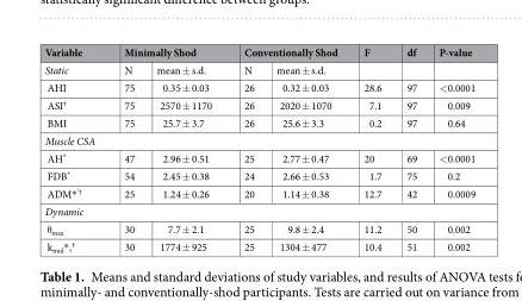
<table><thead><tr><td rowspan="2">Variable Static</td><td colspan="2">Minimally Shod</td><td colspan="2">Conventionally Shod</td><td rowspan="2">F</td><td rowspan="2">df</td><td rowspan="2">P-value</td></tr><tr><td>N</td><td>mean ± s.d.</td><td>N</td><td>mean ± s.d.</td></tr></thead><tbody><tr><td>AHI</td><td>75</td><td>0.35 ± 0.03</td><td>26</td><td>0.32 ± 0.03</td><td>28.6</td><td>97</td><td>&lt;0.0001</td></tr><tr><td>ASI<sup>†</sup></td><td>75</td><td>2570 ± 1170</td><td>26</td><td>2020 ± 1070</td><td>7.1</td><td>97</td><td>0.009</td></tr><tr><td>BMI</td><td>75</td><td>25.7 ± 3.7</td><td>26</td><td>25.6 ± 3.3</td><td>0.2</td><td>97</td><td>0.64</td></tr><tr><td colspan="8">Muscle CSA</td></tr><tr><td>AH*</td><td>47</td><td>2.96 ± 0.51</td><td>25</td><td>2.77 ± 0.47</td><td>20</td><td>69</td><td>&lt;0.0001</td></tr><tr><td>FDB*</td><td>54</td><td>2.45 ± 0.38</td><td>24</td><td>2.66 ± 0.53</td><td>1.7</td><td>75</td><td>0.2</td></tr><tr><td>ADM*<sup>’†</sup></td><td>25</td><td>1.24 ± 0.26</td><td>20</td><td>1.14 ± 0.38</td><td>12.7</td><td>42</td><td>0.0009</td></tr><tr><td colspan="8">Dynamic</td></tr><tr><td>θ<sub>max</sub></td><td>30</td><td>7.7 ± 2.1</td><td>25</td><td>9.8 ± 2.4</td><td>11.2</td><td>50</td><td>0.002</td></tr><tr><td>k<sub>mid</sub>*,<sup>†</sup></td><td>30</td><td>1774 ± 925</td><td>25</td><td>1304 ± 477</td><td>10.4</td><td>51</td><td>0.002</td></tr></tbody></table>